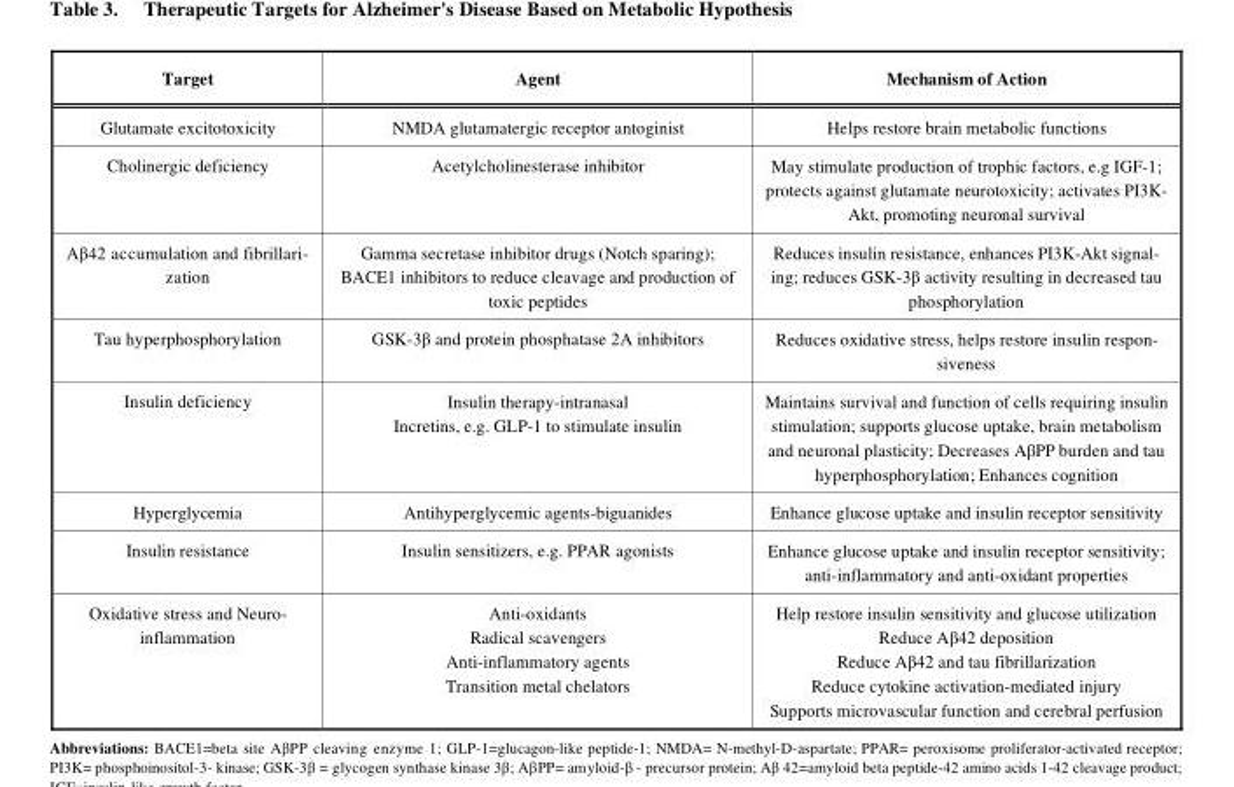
<table><thead><tr><td>Target</td><td>Agent</td><td>Mechanism of Action</td></tr></thead><tbody><tr><td>Glutamate excitotoxicity</td><td>NMDA glutamatergic receptor antoginist</td><td>Helps restore brain metabolic functions</td></tr><tr><td>Cholinergic deficiency</td><td>Acetylcholinesterase inhibitor</td><td>May stimulate production of trophic factors, e.g IGF-1; protects against glutamate neurotoxicity; activates PI3K- Akt, promoting neuronal survival</td></tr><tr><td>A�42 accumulation and fibrillari- zation</td><td>Gamma secretase inhibitor drugs (Notch sparing); BACE1 inhibitors to reduce cleavage and production of toxic peptides</td><td>Reduces insulin resistance, enhances PI3K-Akt signal- ing; reduces GSK-3� activity resulting in decreased tau phosphorylation</td></tr><tr><td>Tau hyperphosphorylation</td><td>GSK-3β and protein phosphatase 2A inhibitors</td><td>Reduces oxidative stress, helps restore insulin respon- siveness</td></tr><tr><td>Insulin deficiency</td><td>Insulin therapy-intranasal Incretins, e.g. GLP-1 to stimulate insulin</td><td>Maintains survival and function of cells requiring insulin stimulation; supports glucose uptake, brain metabolism and neuronal plasticity; Decreases AβPP burden and tau hyperphosphorylation; Enhances cognition</td></tr><tr><td>Hyperglycemia</td><td>Antihyperglycemic agents-biguanides</td><td>Enhance glucose uptake and insulin receptor sensitivity</td></tr><tr><td>Insulin resistance</td><td>Insulin sensitizers, e.g. PPAR agonists</td><td>Enhance glucose uptake and insulin receptor sensitivity; anti-inflammatory and anti-oxidant properties</td></tr><tr><td>Oxidative stress and Neuro- inflammation</td><td>Anti-oxidants Radical scavengers Anti-inflammatory agents Transition metal chelators</td><td>Help restore insulin sensitivity and glucose utilization Reduce Aβ42 deposition Reduce Aβ42 and tau fibrillarization Reduce cytokine activation-mediated injury Supports microvascular function and cerebral perfusion</td></tr></tbody></table>